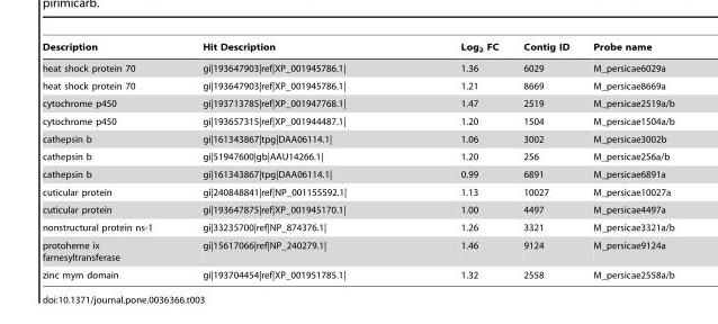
<table><thead><tr><td>Description</td><td>Hit Description</td><td>Log<sub>2</sub> FC</td><td>Contig ID</td><td>Probe name</td></tr></thead><tbody><tr><td>heat shock protein 70</td><td>gi|193647903|ref|XP_001945786.1|</td><td>1.36</td><td>6029</td><td>M_persicae6029a</td></tr><tr><td>heat shock protein 70</td><td>gi|193647903|ref|XP_001945786.1|</td><td>1.21</td><td>8669</td><td>M_persicae8669a</td></tr><tr><td>cytochrome p450</td><td>gi|193713785|ref|XP_001947768.1|</td><td>1.47</td><td>2519</td><td>M_persicae2519a/b</td></tr><tr><td>cytochrome p450</td><td>gi|193657315|ref|XP_001944487.1|</td><td>1.20</td><td>1504</td><td>M_persicae1504a/b</td></tr><tr><td>cathepsin b</td><td>gi|161343867|tpg|DAA06114.1|</td><td>1.06</td><td>3002</td><td>M_persicae3002b</td></tr><tr><td>cathepsin b</td><td>gi|51947600|gb|AAU14266.1|</td><td>1.20</td><td>256</td><td>M_persicae256a/b</td></tr><tr><td>cathepsin b</td><td>gi|161343867|tpg|DAA06114.1|</td><td>0.99</td><td>6891</td><td>M_persicae6891a</td></tr><tr><td>cuticular protein</td><td>gi|240848841|ref|NP_001155592.1|</td><td>1.13</td><td>10027</td><td>M_persicae10027a</td></tr><tr><td>cuticular protein</td><td>gi|193647875|ref|XP_001945170.1|</td><td>1.00</td><td>4497</td><td>M_persicae4497a</td></tr><tr><td>nonstructural protein ns-1</td><td>gi|33235700|ref|NP_874376.1|</td><td>1.26</td><td>3321</td><td>M_persicae3321a/b</td></tr><tr><td>protoheme ix farnesyltransferase</td><td>gi|15617066|ref|NP_240279.1|</td><td>1.46</td><td>9124</td><td>M_persicae9124a</td></tr><tr><td>zinc mym domain</td><td>gi|193704454|ref|XP_001951785.1|</td><td>1.32</td><td>2558</td><td>M_persicae2558a/b</td></tr></tbody></table>